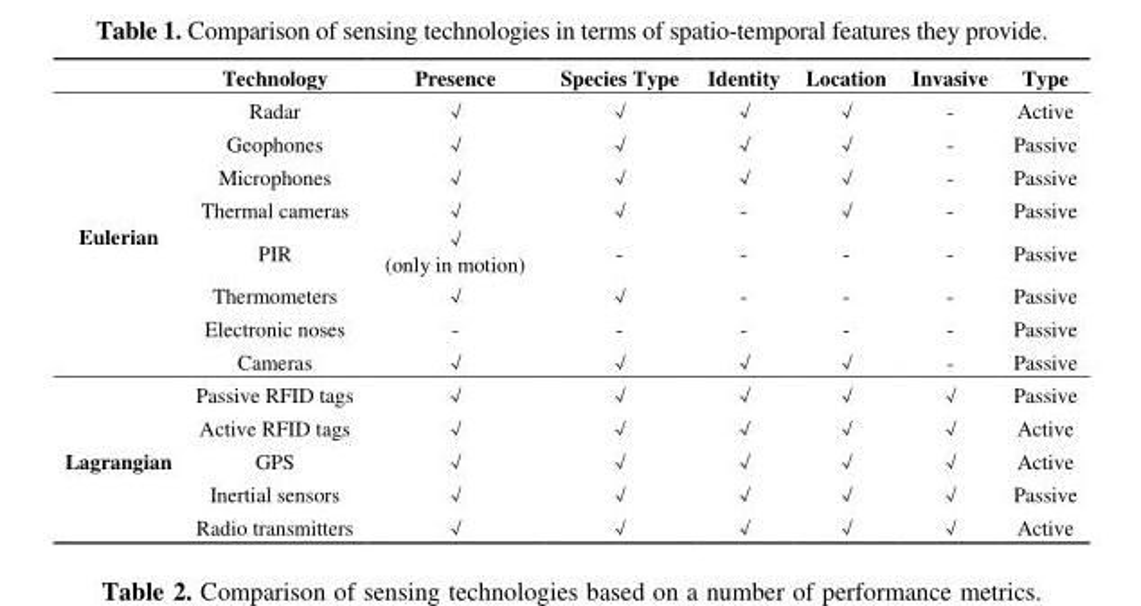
<table><thead><tr><td></td><td>Technology</td><td>Presence</td><td>Species Type</td><td>Identity</td><td>Location</td><td>Invasive</td><td>Type</td></tr></thead><tbody><tr><td rowspan="8">Eulerian</td><td>Radar</td><td>√</td><td>√</td><td>√</td><td>√</td><td>-</td><td>Active</td></tr><tr><td>Geophones</td><td>√</td><td>√</td><td>√</td><td>√</td><td>-</td><td>Passive</td></tr><tr><td>Microphones</td><td>√</td><td>√</td><td>√</td><td>√</td><td>-</td><td>Passive</td></tr><tr><td>Thermal cameras</td><td>√</td><td>√</td><td>-</td><td>√</td><td>-</td><td>Passive</td></tr><tr><td>PIR</td><td>√ (only in motion)</td><td>-</td><td>-</td><td>-</td><td>-</td><td>Passive</td></tr><tr><td>Thermometers</td><td>√</td><td>√</td><td>-</td><td>-</td><td>-</td><td>Passive</td></tr><tr><td>Electronic noses</td><td>-</td><td>-</td><td>-</td><td>-</td><td>-</td><td>Passive</td></tr><tr><td>Cameras</td><td>√</td><td>√</td><td>√</td><td>√</td><td>-</td><td>Passive</td></tr><tr><td rowspan="5">Lagrangian</td><td>Passive RFID tags</td><td>√</td><td>√</td><td>√</td><td>√</td><td>√</td><td>Passive</td></tr><tr><td>Active RFID tags</td><td>√</td><td>√</td><td>√</td><td>√</td><td>√</td><td>Active</td></tr><tr><td>GPS</td><td>√</td><td>√</td><td>√</td><td>√</td><td>√</td><td>Active</td></tr><tr><td>Inertial sensors</td><td>√</td><td>√</td><td>√</td><td>√</td><td>√</td><td>Passive</td></tr><tr><td>Radio transmitters</td><td>√</td><td>√</td><td>√</td><td>√</td><td>√</td><td>Active</td></tr></tbody></table>